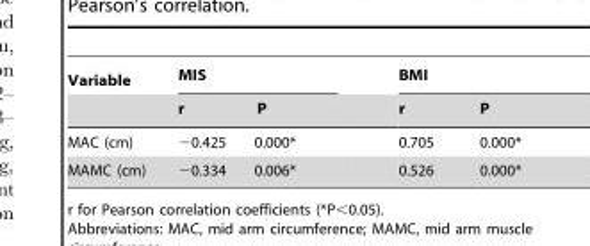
<table><thead><tr><td rowspan="2">Variable</td><td rowspan="2">MIS r P</td><td rowspan="2">BMI r P</td></tr><tr></tr></thead><tbody><tr><td>MAC (cm)</td><td>−0.425 0.000*</td><td>0.705 0.000*</td></tr><tr><td>MAMC (cm)</td><td>−0.334 0.006*</td><td>0.526 0.000*</td></tr></tbody></table>